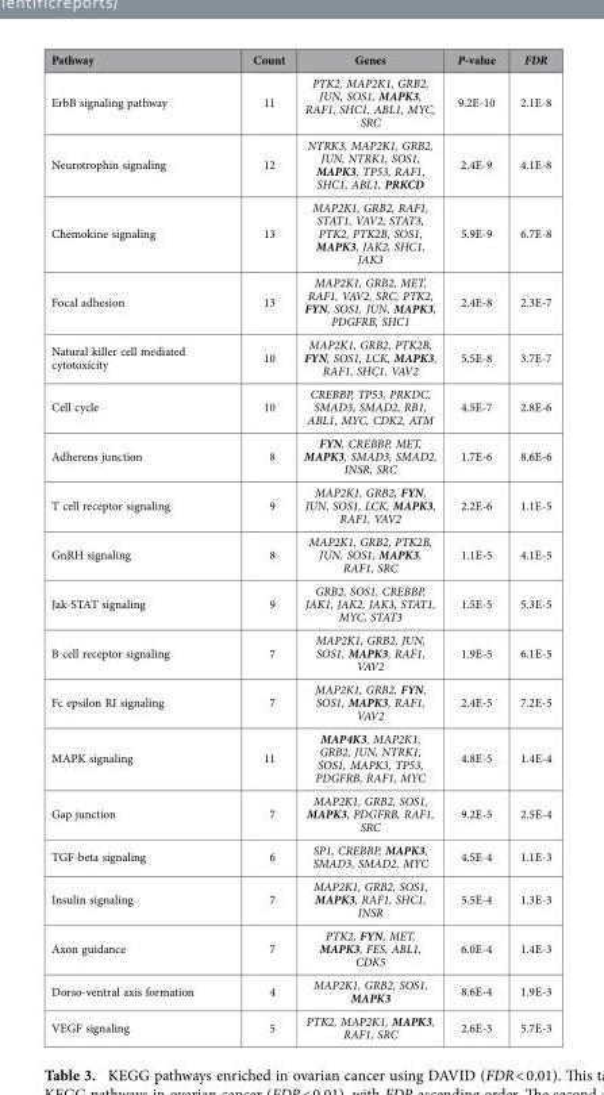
<table><thead><tr><td>Pathway</td><td>Count</td><td>Genes</td><td>P-value</td><td>FDR</td></tr></thead><tbody><tr><td>ErbB signaling pathway</td><td>11</td><td>PTK2, MAP2K1, GRB2, JUN, SOS1, MAPK3, RAF1, SHC1, ABL1, MYC, SRC</td><td>9.2E-10</td><td>2.1E-8</td></tr><tr><td>Neurotrophin signaling</td><td>12</td><td>NTRK3, MAP2K1, GRB2, JUN, NTRK1, SOS1, MAPK3, TP53, RAF1, SHC1, ABL1, PRKCD</td><td>2.4E-9</td><td>4.1E-8</td></tr><tr><td>Chemokine signaling</td><td>13</td><td>MAP2K1, GRB2, RAF1, STAT1, VAV2, STAT3, PTK2, PTK2B, SOS1, MAPK3, JAK2, SHC1, JAK3</td><td>5.9E-9</td><td>6.7E-8</td></tr><tr><td>Focal adhesion</td><td>13</td><td>MAP2K1, GRB2, MET, RAF1, VAV2, SRC, PTK2, FYN, SOS1, JUN, MAPK3, PDGFRB, SHC1</td><td>2.4E-8</td><td>2.3E-7</td></tr><tr><td>Natural killer cell mediated cytotoxicity</td><td>10</td><td>MAP2K1, GRB2, PTK2B, FYN, SOS1, LCK, MAPK3, RAF1, SHC1, VAV2</td><td>5.5E-8</td><td>3.7E-7</td></tr><tr><td>Cell cycle</td><td>10</td><td>CREBBP, TP53, PRKDC, SMAD3, SMAD2, RB1, ABL1, MYC, CDK2, ATM</td><td>4.5E-7</td><td>2.8E-6</td></tr><tr><td>Adherens junction</td><td>8</td><td>FYN, CREBBP, MET, MAPK3, SMAD3, SMAD2, INSR, SRC</td><td>1.7E-6</td><td>8.6E-6</td></tr><tr><td>T cell receptor signaling</td><td>9</td><td>MAP2K1, GRB2, FYN, JUN, SOS1, LCK, MAPK3, RAF1, VAV2</td><td>2.2E-6</td><td>1.1E-5</td></tr><tr><td>GnRH signaling</td><td>8</td><td>MAP2K1, GRB2, PTK2B, JUN, SOS1, MAPK3, RAF1, SRC</td><td>1.1E-5</td><td>4.1E-5</td></tr><tr><td>Jak-STAT signaling</td><td>9</td><td>GRB2, SOS1, CREBBP, JAK1, JAK2, JAK3, STAT1, MYC, STAT3</td><td>1.5E-5</td><td>5.3E-5</td></tr><tr><td>B cell receptor signaling</td><td>7</td><td>MAP2K1, GRB2, JUN, SOS1, MAPK3, RAF1, VAV2</td><td>1.9E-5</td><td>6.1E-5</td></tr><tr><td>Fc epsilon RI signaling</td><td>7</td><td>MAP2K1, GRB2, FYN, SOS1, MAPK3, RAF1, VAV2</td><td>2.4E-5</td><td>7.2E-5</td></tr><tr><td>MAPK signaling</td><td>11</td><td>MAP4K3, MAP2K1, GRB2, JUN, NTRK1, SOS1, MAPK3, TP53, PDGFRB, RAF1, MYC</td><td>4.8E-5</td><td>1.4E-4</td></tr><tr><td>Gap junction</td><td>7</td><td>MAP2K1, GRB2, SOS1, MAPK3, PDGFRB, RAF1, SRC</td><td>9.2E-5</td><td>2.5E-4</td></tr><tr><td>TGF-beta signaling</td><td>6</td><td>SP1, CREBBP, MAPK3, SMAD3, SMAD2, MYC</td><td>4.5E-4</td><td>1.1E-3</td></tr><tr><td>Insulin signaling</td><td>7</td><td>MAP2K1, GRB2, SOS1, MAPK3, RAF1, SHC1, INSR</td><td>5.5E-4</td><td>1.3E-3</td></tr><tr><td>Axon guidance</td><td>7</td><td>PTK2, FYN, MET, MAPK3, FES, ABL1, CDK5</td><td>6.0E-4</td><td>1.4E-3</td></tr><tr><td>Dorso-ventral axis formation</td><td>4</td><td>MAP2K1, GRB2, SOS1, MAPK3</td><td>8.6E-4</td><td>1.9E-3</td></tr><tr><td>VEGF signaling</td><td>5</td><td>PTK2, MAP2K1, MAPK3, RAF1, SRC</td><td>2.6E-3</td><td>5.7E-3</td></tr></tbody></table>